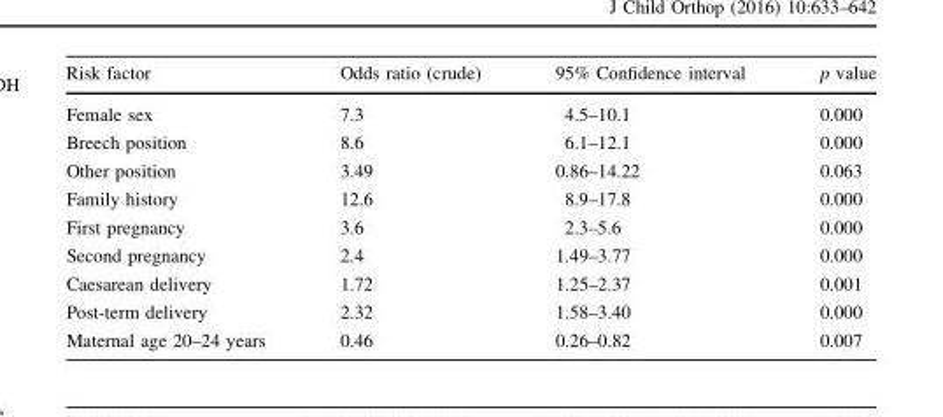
<table><thead><tr><td>Risk factor</td><td>Odds ratio (crude)</td><td>95% Confidence interval</td><td>p value</td></tr></thead><tbody><tr><td>Female sex</td><td>7.3</td><td>4.5–10.1</td><td>0.000</td></tr><tr><td>Breech position</td><td>8.6</td><td>6.1–12.1</td><td>0.000</td></tr><tr><td>Other position</td><td>3.49</td><td>0.86–14.22</td><td>0.063</td></tr><tr><td>Family history</td><td>12.6</td><td>8.9–17.8</td><td>0.000</td></tr><tr><td>First pregnancy</td><td>3.6</td><td>2.3–5.6</td><td>0.000</td></tr><tr><td>Second pregnancy</td><td>2.4</td><td>1.49–3.77</td><td>0.000</td></tr><tr><td>Caesarean delivery</td><td>1.72</td><td>1.25–2.37</td><td>0.001</td></tr><tr><td>Post-term delivery</td><td>2.32</td><td>1.58–3.40</td><td>0.000</td></tr><tr><td>Maternal age 20–24 years</td><td>0.46</td><td>0.26–0.82</td><td>0.007</td></tr></tbody></table>